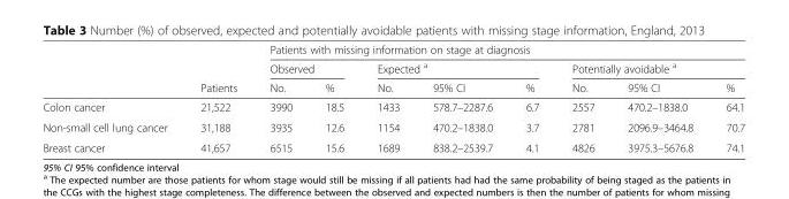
<table><thead><tr><td rowspan="3"></td><td rowspan="3">Patients</td><td colspan="8">Patients with missing information on stage at diagnosis</td></tr><tr><td colspan="2">Observed</td><td colspan="3">Expected <sup>a</sup></td><td colspan="3">Potentially avoidable <sup>a</sup></td></tr><tr><td>No.</td><td>%</td><td>No.</td><td>95% CI</td><td>%</td><td>No.</td><td>95% CI</td><td>%</td></tr></thead><tbody><tr><td>Colon cancer</td><td>21,522</td><td>3990</td><td>18.5</td><td>1433</td><td>578.7–2287.6</td><td>6.7</td><td>2557</td><td>470.2–1838.0</td><td>64.1</td></tr><tr><td>Non-small cell lung cancer</td><td>31,188</td><td>3935</td><td>12.6</td><td>1154</td><td>470.2–1838.0</td><td>3.7</td><td>2781</td><td>2096.9–3464.8</td><td>70.7</td></tr><tr><td>Breast cancer</td><td>41,657</td><td>6515</td><td>15.6</td><td>1689</td><td>838.2–2539.7</td><td>4.1</td><td>4826</td><td>3975.3–5676.8</td><td>74.1</td></tr></tbody></table>